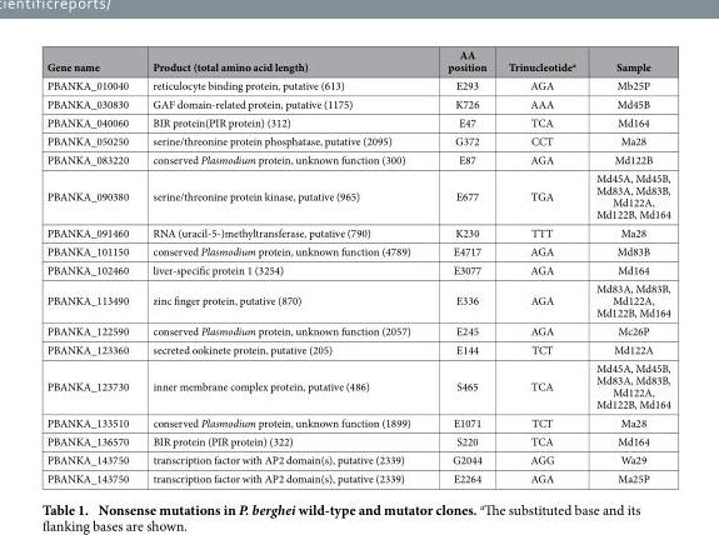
<table><thead><tr><td>Gene name</td><td>Product (total amino acid length)</td><td>AA position</td><td>Trinucleotide<sup>a</sup></td><td>Sample</td></tr></thead><tbody><tr><td>PBANKA_010040</td><td>reticulocyte binding protein, putative (613)</td><td>E293</td><td>AGA</td><td>Mb25P</td></tr><tr><td>PBANKA_030830</td><td>GAF domain-related protein, putative (1175)</td><td>K726</td><td>AAA</td><td>Md45B</td></tr><tr><td>PBANKA_040060</td><td>BIR protein(PIR protein) (312)</td><td>E47</td><td>TCA</td><td>Md164</td></tr><tr><td>PBANKA_050250</td><td>serine/threonine protein phosphatase, putative (2095)</td><td>G372</td><td>CCT</td><td>Ma28</td></tr><tr><td>PBANKA_083220</td><td>conserved Plasmodium protein, unknown function (300)</td><td>E87</td><td>AGA</td><td>Md122B</td></tr><tr><td>PBANKA_090380</td><td>serine/threonine protein kinase, putative (965)</td><td>E677</td><td>TGA</td><td>Md45A, Md45B, Md83A, Md83B, Md122A, Md122B, Md164</td></tr><tr><td>PBANKA_091460</td><td>RNA (uracil-5-)methyltransferase, putative (790)</td><td>K230</td><td>TTT</td><td>Ma28</td></tr><tr><td>PBANKA_101150</td><td>conserved Plasmodium protein, unknown function (4789)</td><td>E4717</td><td>AGA</td><td>Md83B</td></tr><tr><td>PBANKA_102460</td><td>liver-specific protein 1 (3254)</td><td>E3077</td><td>AGA</td><td>Md164</td></tr><tr><td>PBANKA_113490</td><td>zinc finger protein, putative (870)</td><td>E336</td><td>AGA</td><td>Md83A, Md83B, Md122A, Md122B, Md164</td></tr><tr><td>PBANKA_122590</td><td>conserved Plasmodium protein, unknown function (2057)</td><td>E245</td><td>AGA</td><td>Mc26P</td></tr><tr><td>PBANKA_123360</td><td>secreted ookinete protein, putative (205)</td><td>E144</td><td>TCT</td><td>Md122A</td></tr><tr><td>PBANKA_123730</td><td>inner membrane complex protein, putative (486)</td><td>S465</td><td>TCA</td><td>Md45A, Md45B, Md83A, Md83B, Md122A, Md122B, Md164</td></tr><tr><td>PBANKA_133510</td><td>conserved Plasmodium protein, unknown function (1899)</td><td>E1071</td><td>TCT</td><td>Ma28</td></tr><tr><td>PBANKA_136570</td><td>BIR protein (PIR protein) (322)</td><td>S220</td><td>TCA</td><td>Md164</td></tr><tr><td>PBANKA_143750</td><td>transcription factor with AP2 domain(s), putative (2339)</td><td>G2044</td><td>AGG</td><td>Wa29</td></tr><tr><td>PBANKA_143750</td><td>transcription factor with AP2 domain(s), putative (2339)</td><td>E2264</td><td>AGA</td><td>Ma25P</td></tr></tbody></table>